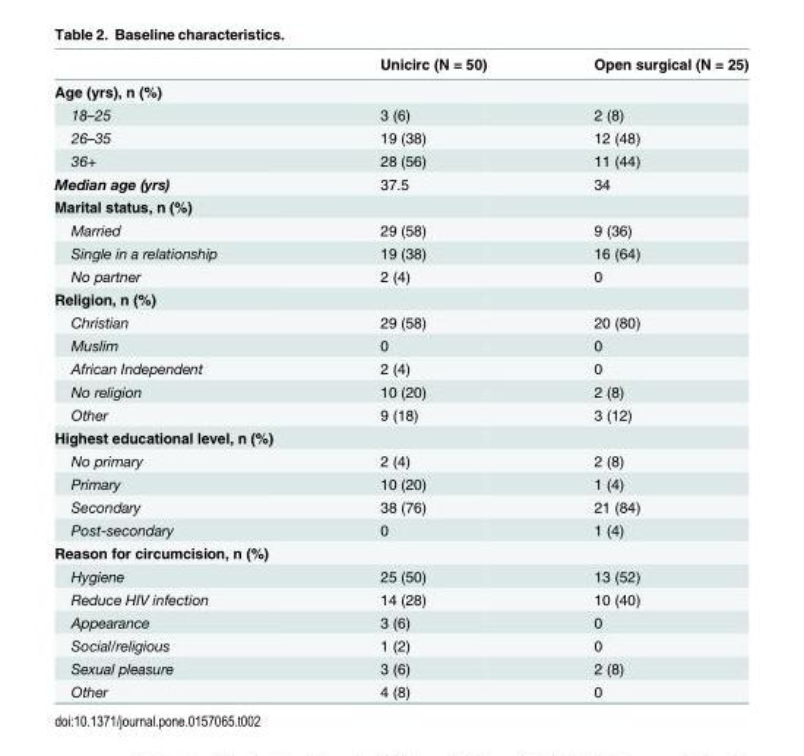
<table><thead><tr><td></td><td>Unicirc (N = 50)</td><td>Open surgical (N = 25)</td></tr></thead><tbody><tr><td colspan="3">Age (yrs), n (%)</td></tr><tr><td>18–25</td><td>3 (6)</td><td>2 (8)</td></tr><tr><td>26–35</td><td>19 (38)</td><td>12 (48)</td></tr><tr><td>36+</td><td>28 (56)</td><td>11 (44)</td></tr><tr><td>Median age (yrs)</td><td>37.5</td><td>34</td></tr><tr><td colspan="3">Marital status, n (%)</td></tr><tr><td>Married</td><td>29 (58)</td><td>9 (36)</td></tr><tr><td>Single in a relationship</td><td>19 (38)</td><td>16 (64)</td></tr><tr><td>No partner</td><td>2 (4)</td><td>0</td></tr><tr><td colspan="3">Religion, n (%)</td></tr><tr><td>Christian</td><td>29 (58)</td><td>20 (80)</td></tr><tr><td>Muslim</td><td>0</td><td>0</td></tr><tr><td>African Independent</td><td>2 (4)</td><td>0</td></tr><tr><td>No religion</td><td>10 (20)</td><td>2 (8)</td></tr><tr><td>Other</td><td>9 (18)</td><td>3 (12)</td></tr><tr><td colspan="3">Highest educational level, n (%)</td></tr><tr><td>No primary</td><td>2 (4)</td><td>2 (8)</td></tr><tr><td>Primary</td><td>10 (20)</td><td>1 (4)</td></tr><tr><td>Secondary</td><td>38 (76)</td><td>21 (84)</td></tr><tr><td>Post-secondary</td><td>0</td><td>1 (4)</td></tr><tr><td colspan="3">Reason for circumcision, n (%)</td></tr><tr><td>Hygiene</td><td>25 (50)</td><td>13 (52)</td></tr><tr><td>Reduce HIV infection</td><td>14 (28)</td><td>10 (40)</td></tr><tr><td>Appearance</td><td>3 (6)</td><td>0</td></tr><tr><td>Social/religious</td><td>1 (2)</td><td>0</td></tr><tr><td>Sexual pleasure</td><td>3 (6)</td><td>2 (8)</td></tr><tr><td>Other</td><td>4 (8)</td><td>0</td></tr></tbody></table>